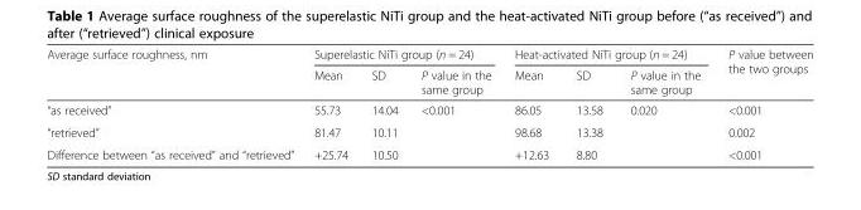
<table><thead><tr><td rowspan="2">Average surface roughness, nm</td><td colspan="3">Superelastic NiTi group (n = 24)</td><td colspan="3">Heat-activated NiTi group (n = 24)</td><td rowspan="2">P value between the two groups</td></tr><tr><td>Mean</td><td>SD</td><td>P value in the same group</td><td>Mean</td><td>SD</td><td>P value in the same group</td></tr></thead><tbody><tr><td>“as received”</td><td>55.73</td><td>14.04</td><td rowspan="2">&lt;0.001</td><td>86.05</td><td>13.58</td><td rowspan="2">0.020</td><td>&lt;0.001</td></tr><tr><td>“retrieved”</td><td>81.47</td><td>10.11</td><td>98.68</td><td>13.38</td><td>0.002</td></tr><tr><td>Difference between “as received” and “retrieved”</td><td>+25.74</td><td>10.50</td><td></td><td>+12.63</td><td>8.80</td><td></td><td>&lt;0.001</td></tr></tbody></table>